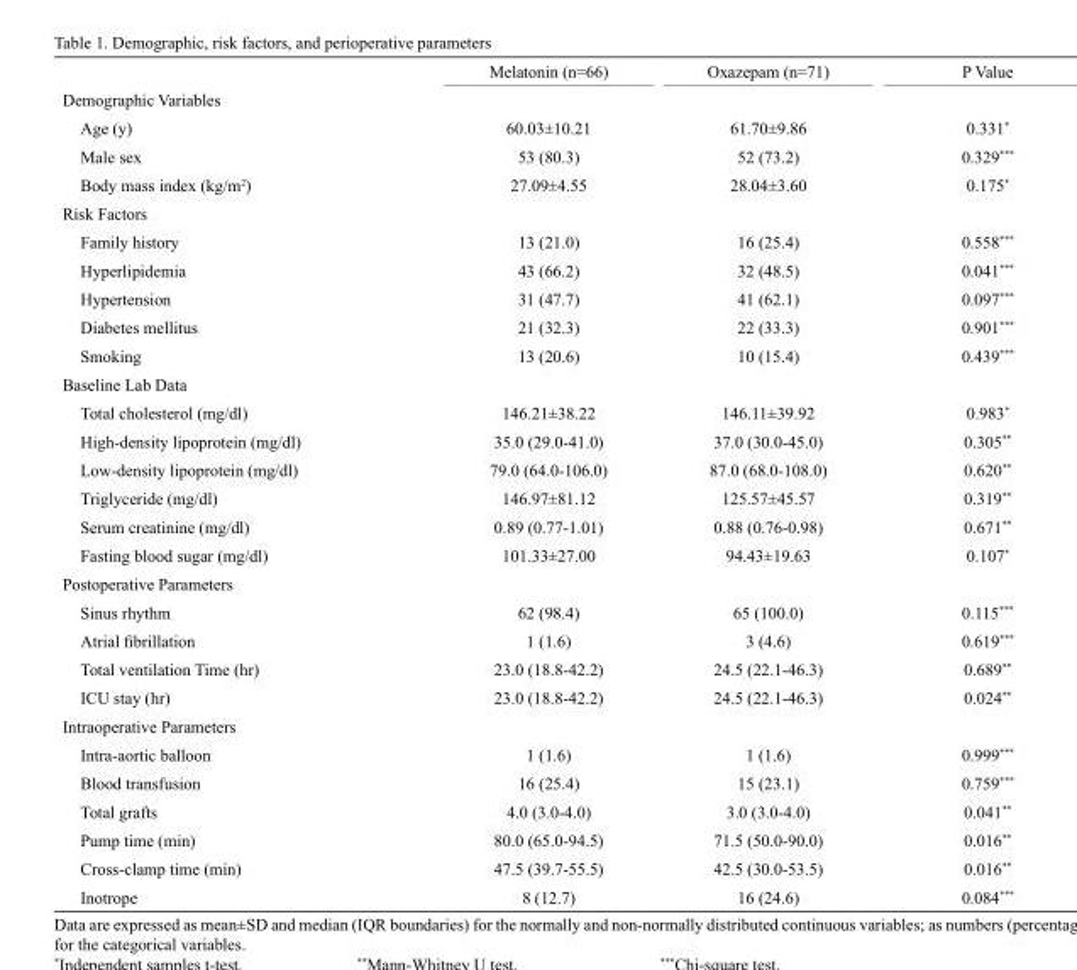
<table><thead><tr><td></td><td>Melatonin (n=66)</td><td>Oxazepam (n=71)</td><td>P Value</td></tr></thead><tbody><tr><td colspan="4">Demographic Variables</td></tr><tr><td>Age (y)</td><td>60.03±10.21</td><td>61.70±9.86</td><td>0.331*</td></tr><tr><td>Male sex</td><td>53 (80.3)</td><td>52 (73.2)</td><td>0.329***</td></tr><tr><td>Body mass index (kg/m<sup>2</sup>)</td><td>27.09±4.55</td><td>28.04±3.60</td><td>0.175*</td></tr><tr><td colspan="4">Risk Factors</td></tr><tr><td>Family history</td><td>13 (21.0)</td><td>16 (25.4)</td><td>0.558***</td></tr><tr><td>Hyperlipidemia</td><td>43 (66.2)</td><td>32 (48.5)</td><td>0.041***</td></tr><tr><td>Hypertension</td><td>31 (47.7)</td><td>41 (62.1)</td><td>0.097***</td></tr><tr><td>Diabetes mellitus</td><td>21 (32.3)</td><td>22 (33.3)</td><td>0.901***</td></tr><tr><td>Smoking</td><td>13 (20.6)</td><td>10 (15.4)</td><td>0.439***</td></tr><tr><td colspan="4">Baseline Lab Data</td></tr><tr><td>Total cholesterol (mg/dl)</td><td>146.21±38.22</td><td>146.11±39.92</td><td>0.983*</td></tr><tr><td>High-density lipoprotein (mg/dl)</td><td>35.0 (29.0-41.0)</td><td>37.0 (30.0-45.0)</td><td>0.305**</td></tr><tr><td>Low-density lipoprotein (mg/dl)</td><td>79.0 (64.0-106.0)</td><td>87.0 (68.0-108.0)</td><td>0.620**</td></tr><tr><td>Triglyceride (mg/dl)</td><td>146.97±81.12</td><td>125.57±45.57</td><td>0.319**</td></tr><tr><td>Serum creatinine (mg/dl)</td><td>0.89 (0.77-1.01)</td><td>0.88 (0.76-0.98)</td><td>0.671**</td></tr><tr><td>Fasting blood sugar (mg/dl)</td><td>101.33±27.00</td><td>94.43±19.63</td><td>0.107*</td></tr><tr><td colspan="4">Postoperative Parameters</td></tr><tr><td>Sinus rhythm</td><td>62 (98.4)</td><td>65 (100.0)</td><td>0.115***</td></tr><tr><td>Atrial fibrillation</td><td>1 (1.6)</td><td>3 (4.6)</td><td>0.619***</td></tr><tr><td>Total ventilation Time (hr)</td><td>23.0 (18.8-42.2)</td><td>24.5 (22.1-46.3)</td><td>0.689**</td></tr><tr><td>ICU stay (hr)</td><td>23.0 (18.8-42.2)</td><td>24.5 (22.1-46.3)</td><td>0.024**</td></tr><tr><td colspan="4">Intraoperative Parameters</td></tr><tr><td>Intra-aortic balloon</td><td>1 (1.6)</td><td>1 (1.6)</td><td>0.999***</td></tr><tr><td>Blood transfusion</td><td>16 (25.4)</td><td>15 (23.1)</td><td>0.759***</td></tr><tr><td>Total grafts</td><td>4.0 (3.0-4.0)</td><td>3.0 (3.0-4.0)</td><td>0.041**</td></tr><tr><td>Pump time (min)</td><td>80.0 (65.0-94.5)</td><td>71.5 (50.0-90.0)</td><td>0.016**</td></tr><tr><td>Cross-clamp time (min)</td><td>47.5 (39.7-55.5)</td><td>42.5 (30.0-53.5)</td><td>0.016**</td></tr><tr><td>Inotrope</td><td>8 (12.7)</td><td>16 (24.6)</td><td>0.084***</td></tr></tbody></table>